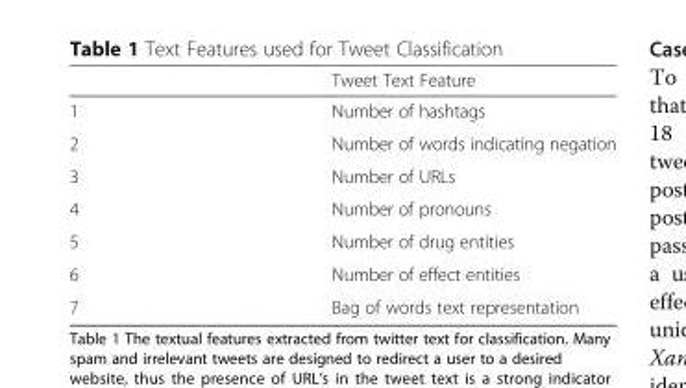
<table><thead><tr><td></td><td>Tweet Text Feature</td></tr></thead><tbody><tr><td>1</td><td>Number of hashtags</td></tr><tr><td>2</td><td>Number of words indicating negation</td></tr><tr><td>3</td><td>Number of URLs</td></tr><tr><td>4</td><td>Number of pronouns</td></tr><tr><td>5</td><td>Number of drug entities</td></tr><tr><td>6</td><td>Number of effect entities</td></tr><tr><td>7</td><td>Bag of words text representation</td></tr></tbody></table>